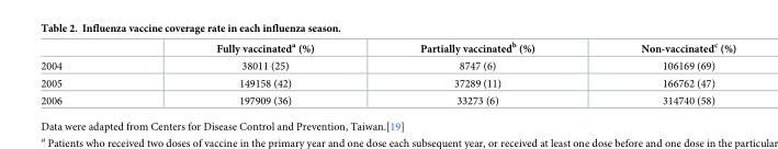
<table><thead><tr><td></td><td>Fully vaccinated<sup>a</sup> (%)</td><td>Partially vaccinated<sup>b</sup> (%)</td><td>Non-vaccinated<sup>c</sup> (%)</td></tr></thead><tbody><tr><td>2004</td><td>38011 (25)</td><td>8747 (6)</td><td>106169 (69)</td></tr><tr><td>2005</td><td>149158 (42)</td><td>37289 (11)</td><td>166762 (47)</td></tr><tr><td>2006</td><td>197909 (36)</td><td>33273 (6)</td><td>314740 (58)</td></tr></tbody></table>